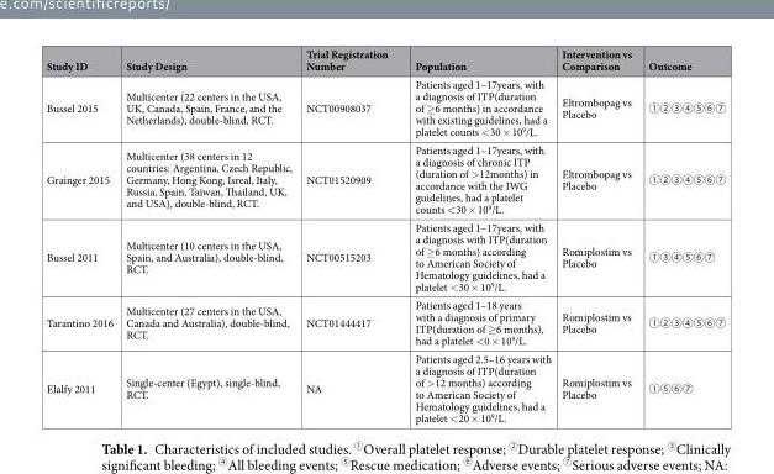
<table><thead><tr><td>Study ID</td><td>Study Design</td><td>Trial Registration Number</td><td>Population</td><td>Intervention vs Comparison</td><td>Outcome</td></tr></thead><tbody><tr><td>Bussel 2015</td><td>Multicenter (22 centers in the USA, UK, Canada, Spain, France, and the Netherlands), double-blind, RCT.</td><td>NCT00908037</td><td>Patients aged 1–17years, with a diagnosis of ITP(duration of ≥6 months) in accordance with existing guidelines, had a platelet counts &lt;30 × 10<sup>9</sup>/L.</td><td>Eltrombopag vs Placebo</td><td>①②③④⑤⑥⑦</td></tr><tr><td>Grainger 2015</td><td>Multicenter (38 centers in 12 countries: Argentina, Czech Republic, Germany, Hong Kong, Isreal, Italy, Russia, Spain, Taiwan, Thailand, UK, and USA), double-blind, RCT.</td><td>NCT01520909</td><td>Patients aged 1–17years, with a diagnosis of chronic ITP (duration of &gt;12months) in accordance with the IWG guidelines, had a platelet counts &lt;30 × 10<sup>9</sup>/L.</td><td>Eltrombopag vs Placebo</td><td>①②③④⑤⑥⑦</td></tr><tr><td>Bussel 2011</td><td>Multicenter (10 centers in the USA, Spain, and Australia), double-blind, RCT.</td><td>NCT00515203</td><td>Patients aged 1–17years, with a diagnosis with ITP(duration of ≥6 months) according to American Society of Hematology guidelines, had a platelet &lt;30 × 10<sup>9</sup>/L.</td><td>Romiplostim vs Placebo</td><td>①③④⑤⑥⑦</td></tr><tr><td>Tarantino 2016</td><td>Multicenter (27 centers in the USA, Canada and Australia), double-blind, RCT.</td><td>NCT01444417</td><td>Patients aged 1–18 years with a diagnosis of primary ITP(duration of ≥6 months), had a platelet &lt;0 × 10<sup>9</sup>/L.</td><td>Romiplostim vs Placebo</td><td>①②③④⑤⑥⑦</td></tr><tr><td>Elalfy 2011</td><td>Single-center (Egypt), single-blind, RCT.</td><td>NA</td><td>Patients aged 2.5–16 years with a diagnosis of ITP(duration of &gt;12 months) according to American Society of Hematology guidelines, had a platelet &lt;20 × 10<sup>9</sup>/L.</td><td>Romiplostim vs Placebo</td><td>①⑤⑥⑦</td></tr></tbody></table>